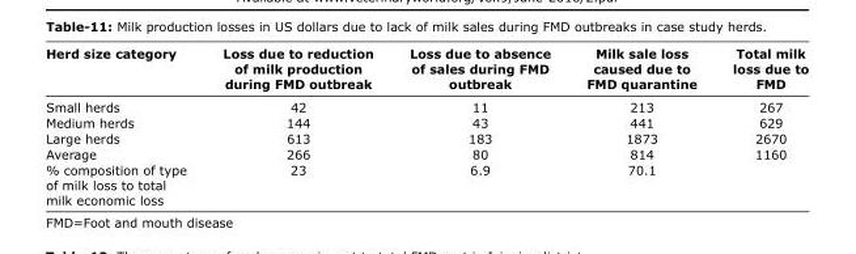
<table><thead><tr><td>Herd size category</td><td>Loss due to reduction of milk production during FMD outbreak</td><td>Loss due to absence of sales during FMD outbreak</td><td>Milk sale loss caused due to FMD quarantine</td><td>Total milk loss due to FMD</td></tr></thead><tbody><tr><td>Small herds</td><td>42</td><td>11</td><td>213</td><td>267</td></tr><tr><td>Medium herds</td><td>144</td><td>43</td><td>441</td><td>629</td></tr><tr><td>Large herds</td><td>613</td><td>183</td><td>1873</td><td>2670</td></tr><tr><td>Average</td><td>266</td><td>80</td><td>814</td><td>1160</td></tr><tr><td>% composition of type of milk loss to total milk economic loss</td><td>23</td><td>6.9</td><td>70.1</td><td></td></tr></tbody></table>